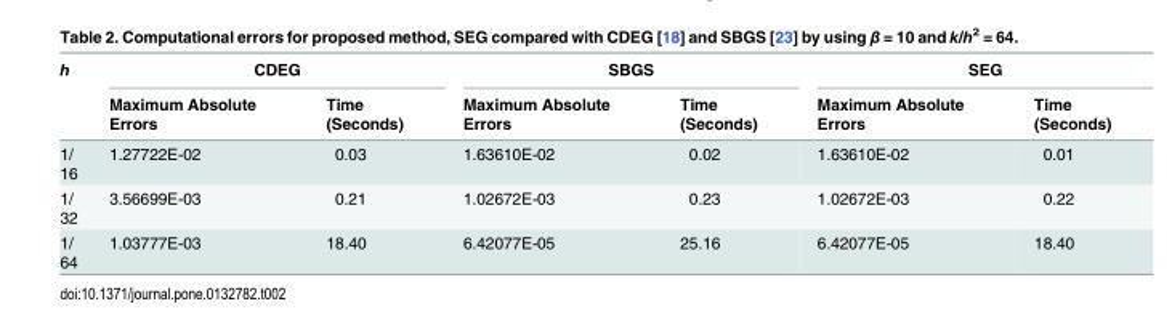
<table><thead><tr><td rowspan="2">h</td><td colspan="2">CDEG</td><td colspan="2">SBGS</td><td colspan="2">SEG</td></tr><tr><td>Maximum Absolute Errors</td><td>Time (Seconds)</td><td>Maximum Absolute Errors</td><td>Time (Seconds)</td><td>Maximum Absolute Errors</td><td>Time (Seconds)</td></tr></thead><tbody><tr><td>1/ 16</td><td>1.27722E-02</td><td>0.03</td><td>1.63610E-02</td><td>0.02</td><td>1.63610E-02</td><td>0.01</td></tr><tr><td>1/ 32</td><td>3.56699E-03</td><td>0.21</td><td>1.02672E-03</td><td>0.23</td><td>1.02672E-03</td><td>0.22</td></tr><tr><td>1/ 64</td><td>1.03777E-03</td><td>18.40</td><td>6.42077E-05</td><td>25.16</td><td>6.42077E-05</td><td>18.40</td></tr></tbody></table>